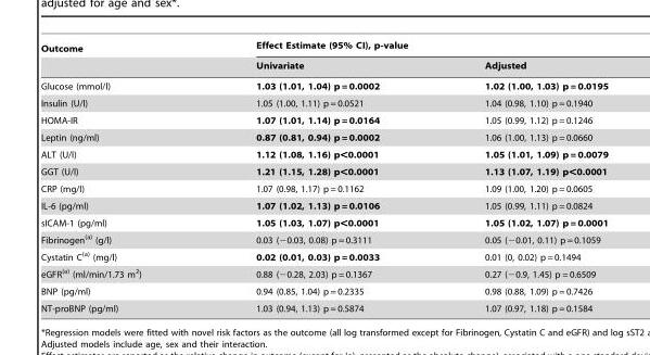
<table><thead><tr><td rowspan="2">Outcome</td><td colspan="2">Effect Estimate (95% CI), p-value</td></tr><tr><td>Univariate</td><td>Adjusted</td></tr></thead><tbody><tr><td>Glucose (mmol/l)</td><td>1.03 (1.01, 1.04) p = 0.0002</td><td>1.02 (1.00, 1.03) p = 0.0195</td></tr><tr><td>Insulin (U/l)</td><td>1.05 (1.00, 1.11) p = 0.0521</td><td>1.04 (0.98, 1.10) p = 0.1940</td></tr><tr><td>HOMA-IR</td><td>1.07 (1.01, 1.14) p = 0.0164</td><td>1.05 (0.99, 1.12) p = 0.1246</td></tr><tr><td>Leptin (ng/ml)</td><td>0.87 (0.81, 0.94) p = 0.0002</td><td>1.06 (1.00, 1.13) p = 0.0660</td></tr><tr><td>ALT (U/l)</td><td>1.12 (1.08, 1.16) p&lt;0.0001</td><td>1.05 (1.01, 1.09) p = 0.0079</td></tr><tr><td>GGT (U/l)</td><td>1.21 (1.15, 1.28) p&lt;0.0001</td><td>1.13 (1.07, 1.19) p&lt;0.0001</td></tr><tr><td>CRP (mg/l)</td><td>1.07 (0.98, 1.17) p = 0.1162</td><td>1.09 (1.00, 1.20) p = 0.0605</td></tr><tr><td>IL-6 (pg/ml)</td><td>1.07 (1.02, 1.13) p = 0.0106</td><td>1.05 (0.99, 1.11) p = 0.0824</td></tr><tr><td>sICAM-1 (pg/ml)</td><td>1.05 (1.03, 1.07) p&lt;0.0001</td><td>1.05 (1.02, 1.07) p = 0.0001</td></tr><tr><td>Fibrinogen<sup>(a)</sup> (g/l)</td><td>0.03 (−0.03, 0.08) p = 0.3111</td><td>0.05 (−0.01, 0.11) p = 0.1059</td></tr><tr><td>Cystatin C<sup>(a)</sup> (mg/l)</td><td>0.02 (0.01, 0.03) p = 0.0033</td><td>0.01 (0, 0.02) p = 0.1494</td></tr><tr><td>eGFR<sup>(a)</sup> (ml/min/1.73 m<sup>2</sup>)</td><td>0.88 (−0.28, 2.03) p = 0.1367</td><td>0.27 (−0.9, 1.45) p = 0.6509</td></tr><tr><td>BNP (pg/ml)</td><td>0.94 (0.85, 1.04) p = 0.2335</td><td>0.98 (0.88, 1.09) p = 0.7426</td></tr><tr><td>NT-proBNP (pg/ml)</td><td>1.03 (0.94, 1.13) p = 0.5874</td><td>1.07 (0.97, 1.18) p = 0.1584</td></tr></tbody></table>